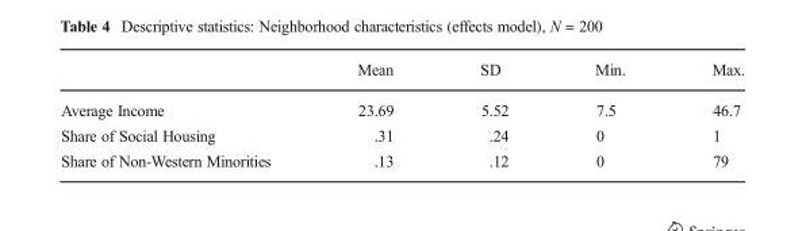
<table><thead><tr><td></td><td>Mean</td><td>SD</td><td>Min.</td><td>Max.</td></tr></thead><tbody><tr><td>Average Income</td><td>23.69</td><td>5.52</td><td>7.5</td><td>46.7</td></tr><tr><td>Share of Social Housing</td><td>.31</td><td>.24</td><td>0</td><td>1</td></tr><tr><td>Share of Non-Western Minorities</td><td>.13</td><td>.12</td><td>0</td><td>79</td></tr></tbody></table>